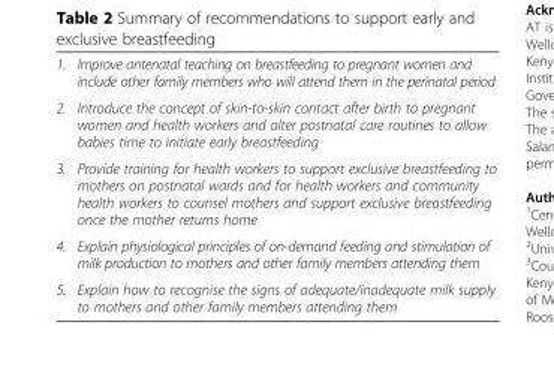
<table><tbody><tr><td>1.</td><td>Improve antenatal teaching on breastfeeding to pregnant women and include other family members who will attend them in the perinatal period</td></tr><tr><td>2.</td><td>Introduce the concept of skin-to-skin contact after birth to pregnant women and health workers and alter postnatal care routines to allow babies time to initiate early breastfeeding</td></tr><tr><td>3.</td><td>Provide training for health workers to support exclusive breastfeeding to mothers on postnatal wards and for health workers and community health workers to counsel mothers and support exclusive breastfeeding once the mother returns home</td></tr><tr><td>4.</td><td>Explain physiological principles of on-demand feeding and stimulation of milk production to mothers and other family members attending them</td></tr><tr><td>5.</td><td>Explain how to recognise the signs of adequate/inadequate milk supply to mothers and other family members attending them</td></tr></tbody></table>